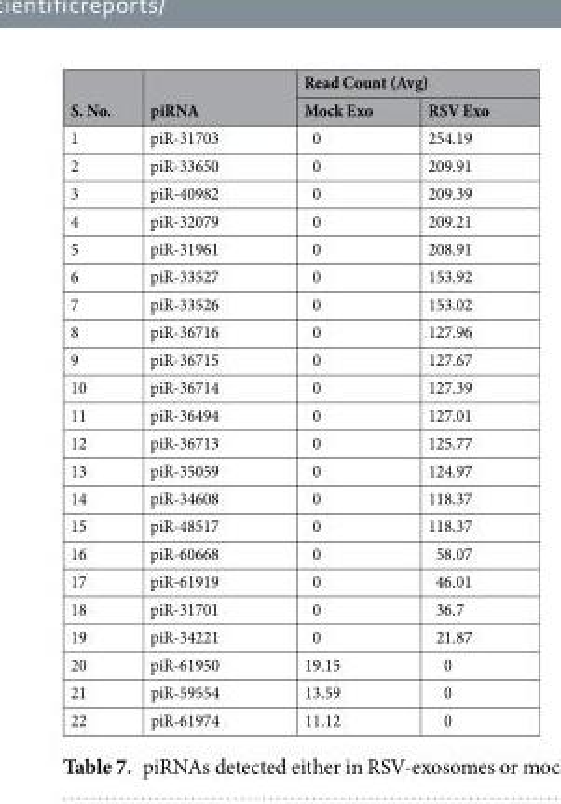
<table><thead><tr><td rowspan="2">S. No.</td><td rowspan="2">piRNA</td><td colspan="2">Read Count (Avg)</td></tr><tr><td>Mock Exo</td><td>RSV Exo</td></tr></thead><tbody><tr><td>1</td><td>piR-31703</td><td>0</td><td>254.19</td></tr><tr><td>2</td><td>piR-33650</td><td>0</td><td>209.91</td></tr><tr><td>3</td><td>piR-40982</td><td>0</td><td>209.39</td></tr><tr><td>4</td><td>piR-32079</td><td>0</td><td>209.21</td></tr><tr><td>5</td><td>piR-31961</td><td>0</td><td>208.91</td></tr><tr><td>6</td><td>piR-33527</td><td>0</td><td>153.92</td></tr><tr><td>7</td><td>piR-33526</td><td>0</td><td>153.02</td></tr><tr><td>8</td><td>piR-36716</td><td>0</td><td>127.96</td></tr><tr><td>9</td><td>piR-36715</td><td>0</td><td>127.67</td></tr><tr><td>10</td><td>piR-36714</td><td>0</td><td>127.39</td></tr><tr><td>11</td><td>piR-36494</td><td>0</td><td>127.01</td></tr><tr><td>12</td><td>piR-36713</td><td>0</td><td>125.77</td></tr><tr><td>13</td><td>piR-35059</td><td>0</td><td>124.97</td></tr><tr><td>14</td><td>piR-34608</td><td>0</td><td>118.37</td></tr><tr><td>15</td><td>piR-48517</td><td>0</td><td>118.37</td></tr><tr><td>16</td><td>piR-60668</td><td>0</td><td>58.07</td></tr><tr><td>17</td><td>piR-61919</td><td>0</td><td>46.01</td></tr><tr><td>18</td><td>piR-31701</td><td>0</td><td>36.7</td></tr><tr><td>19</td><td>piR-34221</td><td>0</td><td>21.87</td></tr><tr><td>20</td><td>piR-61950</td><td>19.15</td><td>0</td></tr><tr><td>21</td><td>piR-59554</td><td>13.59</td><td>0</td></tr><tr><td>22</td><td>piR-61974</td><td>11.12</td><td>0</td></tr></tbody></table>